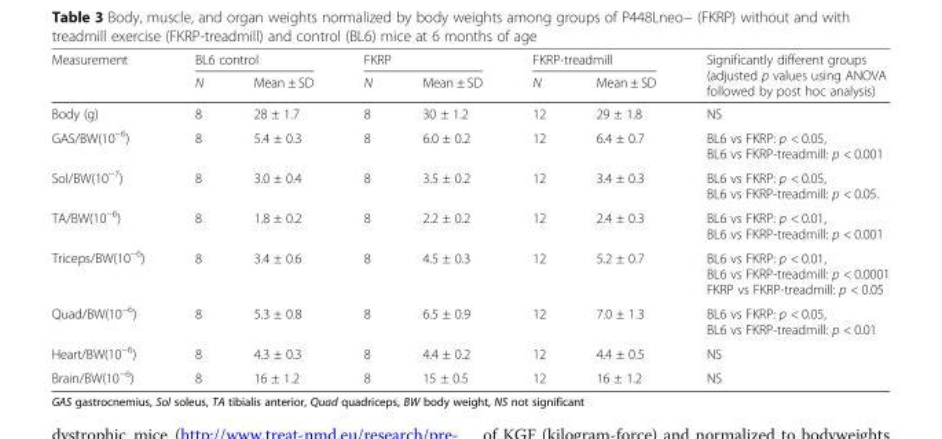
<table><thead><tr><td rowspan="2">Measurement</td><td colspan="2">BL6 control</td><td colspan="2">FKRP</td><td colspan="2">FKRP-treadmill</td><td rowspan="2">Significantly different groups (adjusted p values using ANOVA followed by post hoc analysis)</td></tr><tr><td>N</td><td>Mean ± SD</td><td>N</td><td>Mean ± SD</td><td>N</td><td>Mean ± SD</td></tr></thead><tbody><tr><td>Body (g)</td><td>8</td><td>28 ± 1.7</td><td>8</td><td>30 ± 1.2</td><td>12</td><td>29 ± 1.8</td><td>NS</td></tr><tr><td>GAS/BW(10<sup>−6</sup>)</td><td>8</td><td>5.4 ± 0.3</td><td>8</td><td>6.0 ± 0.2</td><td>12</td><td>6.4 ± 0.7</td><td>BL6 vs FKRP: p &lt; 0.05, BL6 vs FKRP-treadmill: p &lt; 0.001</td></tr><tr><td>Sol/BW(10<sup>−7</sup>)</td><td>8</td><td>3.0 ± 0.4</td><td>8</td><td>3.5 ± 0.2</td><td>12</td><td>3.4 ± 0.3</td><td>BL6 vs FKRP: p &lt; 0.05, BL6 vs FKRP-treadmill: p &lt; 0.05.</td></tr><tr><td>TA/BW(10<sup>−6</sup>)</td><td>8</td><td>1.8 ± 0.2</td><td>8</td><td>2.2 ± 0.2</td><td>12</td><td>2.4 ± 0.3</td><td>BL6 vs FKRP: p &lt; 0.01, BL6 vs FKRP-treadmill: p &lt; 0.001</td></tr><tr><td>Triceps/BW(10<sup>−6</sup>)</td><td>8</td><td>3.4 ± 0.6</td><td>8</td><td>4.5 ± 0.3</td><td>12</td><td>5.2 ± 0.7</td><td>BL6 vs FKRP: p &lt; 0.01, BL6 vs FKRP-treadmill: p &lt; 0.0001 FKRP vs FKRP-treadmill: p &lt; 0.05</td></tr><tr><td>Quad/BW(10<sup>−6</sup>)</td><td>8</td><td>5.3 ± 0.8</td><td>8</td><td>6.5 ± 0.9</td><td>12</td><td>7.0 ± 1.3</td><td>BL6 vs FKRP: p &lt; 0.05, BL6 vs FKRP-treadmill: p &lt; 0.01</td></tr><tr><td>Heart/BW(10<sup>−6</sup>)</td><td>8</td><td>4.3 ± 0.3</td><td>8</td><td>4.4 ± 0.2</td><td>12</td><td>4.4 ± 0.5</td><td>NS</td></tr><tr><td>Brain/BW(10<sup>−6</sup>)</td><td>8</td><td>16 ± 1.2</td><td>8</td><td>15 ± 0.5</td><td>12</td><td>16 ± 1.2</td><td>NS</td></tr></tbody></table>